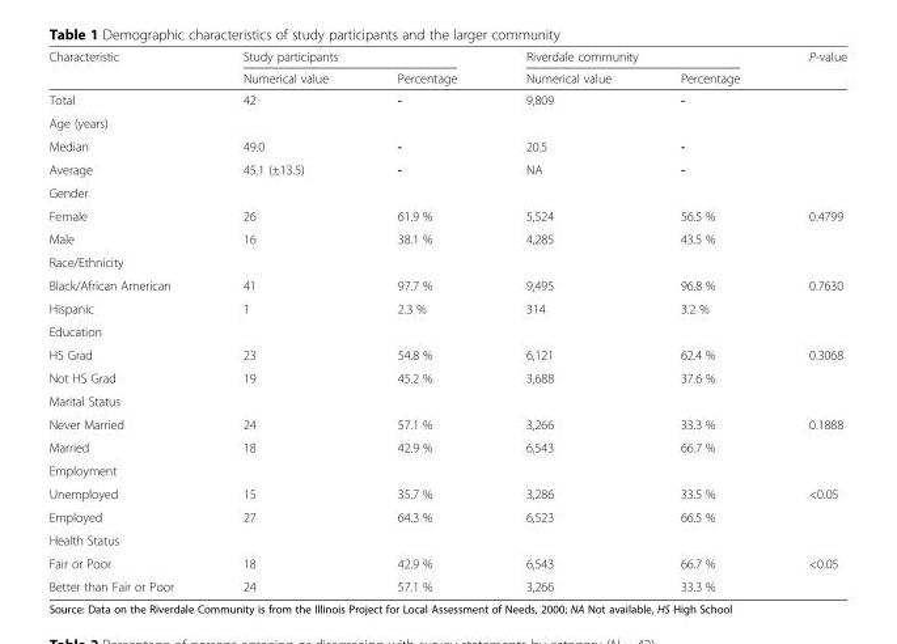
<table><thead><tr><td rowspan="2">Characteristic</td><td colspan="2">Study participants</td><td colspan="2">Riverdale community</td><td rowspan="2">P-value</td></tr><tr><td>Numerical value</td><td>Percentage</td><td>Numerical value</td><td>Percentage</td></tr></thead><tbody><tr><td>Total</td><td>42</td><td>-</td><td>9,809</td><td>-</td><td></td></tr><tr><td colspan="6">Age (years)</td></tr><tr><td>Median</td><td>49.0</td><td>-</td><td>20.5</td><td>-</td><td></td></tr><tr><td>Average</td><td>45.1 (±13.5)</td><td>-</td><td>NA</td><td>-</td><td></td></tr><tr><td colspan="6">Gender</td></tr><tr><td>Female</td><td>26</td><td>61.9 %</td><td>5,524</td><td>56.5 %</td><td rowspan="2">0.4799</td></tr><tr><td>Male</td><td>16</td><td>38.1 %</td><td>4,285</td><td>43.5 %</td></tr><tr><td colspan="6">Race/Ethnicity</td></tr><tr><td>Black/African American</td><td>41</td><td>97.7 %</td><td>9,495</td><td>96.8 %</td><td rowspan="2">0.7630</td></tr><tr><td>Hispanic</td><td>1</td><td>2.3 %</td><td>314</td><td>3.2 %</td></tr><tr><td colspan="6">Education</td></tr><tr><td>HS Grad</td><td>23</td><td>54.8 %</td><td>6,121</td><td>62.4 %</td><td rowspan="2">0.3068</td></tr><tr><td>Not HS Grad</td><td>19</td><td>45.2 %</td><td>3,688</td><td>37.6 %</td></tr><tr><td colspan="6">Marital Status</td></tr><tr><td>Never Married</td><td>24</td><td>57.1 %</td><td>3,266</td><td>33.3 %</td><td rowspan="2">0.1888</td></tr><tr><td>Married</td><td>18</td><td>42.9 %</td><td>6,543</td><td>66.7 %</td></tr><tr><td colspan="6">Employment</td></tr><tr><td>Unemployed</td><td>15</td><td>35.7 %</td><td>3,286</td><td>33.5 %</td><td rowspan="2">&lt;0.05</td></tr><tr><td>Employed</td><td>27</td><td>64.3 %</td><td>6,523</td><td>66.5 %</td></tr><tr><td colspan="6">Health Status</td></tr><tr><td>Fair or Poor</td><td>18</td><td>42.9 %</td><td>6,543</td><td>66.7 %</td><td rowspan="2">&lt;0.05</td></tr><tr><td>Better than Fair or Poor</td><td>24</td><td>57.1 %</td><td>3,266</td><td>33.3 %</td></tr></tbody></table>